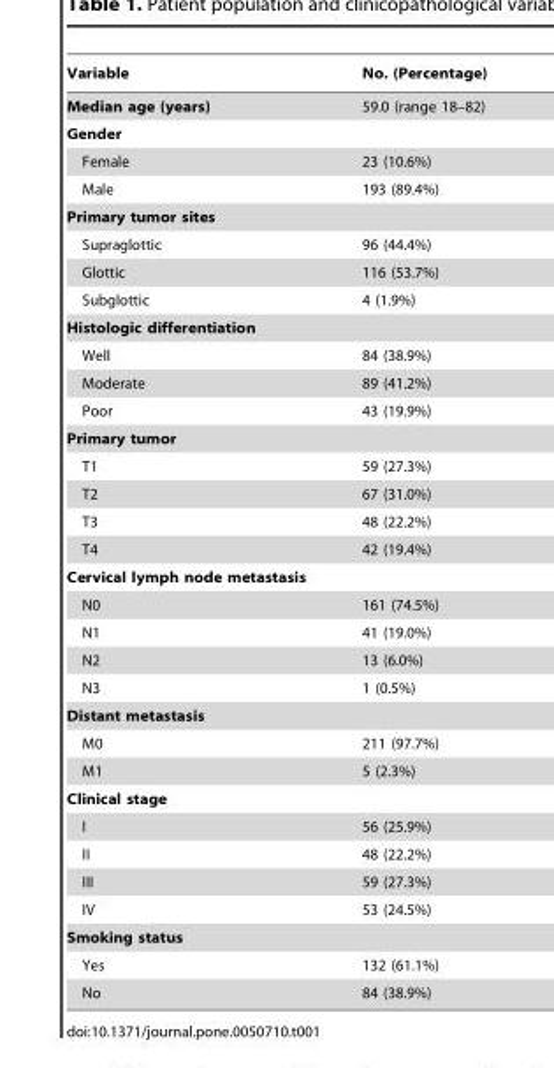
<table><thead><tr><td>Variable</td><td>No. (Percentage)</td></tr></thead><tbody><tr><td>Median age (years)</td><td>59.0 (range 18–82)</td></tr><tr><td colspan="2">Gender</td></tr><tr><td>Female</td><td>23 (10.6%)</td></tr><tr><td>Male</td><td>193 (89.4%)</td></tr><tr><td colspan="2">Primary tumor sites</td></tr><tr><td>Supraglottic</td><td>96 (44.4%)</td></tr><tr><td>Glottic</td><td>116 (53.7%)</td></tr><tr><td>Subglottic</td><td>4 (1.9%)</td></tr><tr><td colspan="2">Histologic differentiation</td></tr><tr><td>Well</td><td>84 (38.9%)</td></tr><tr><td>Moderate</td><td>89 (41.2%)</td></tr><tr><td>Poor</td><td>43 (19.9%)</td></tr><tr><td colspan="2">Primary tumor</td></tr><tr><td>T1</td><td>59 (27.3%)</td></tr><tr><td>T2</td><td>67 (31.0%)</td></tr><tr><td>T3</td><td>48 (22.2%)</td></tr><tr><td>T4</td><td>42 (19.4%)</td></tr><tr><td colspan="2">Cervical lymph node metastasis</td></tr><tr><td>N0</td><td>161 (74.5%)</td></tr><tr><td>N1</td><td>41 (19.0%)</td></tr><tr><td>N2</td><td>13 (6.0%)</td></tr><tr><td>N3</td><td>1 (0.5%)</td></tr><tr><td colspan="2">Distant metastasis</td></tr><tr><td>M0</td><td>211 (97.7%)</td></tr><tr><td>M1</td><td>5 (2.3%)</td></tr><tr><td colspan="2">Clinical stage</td></tr><tr><td>I</td><td>56 (25.9%)</td></tr><tr><td>II</td><td>48 (22.2%)</td></tr><tr><td>III</td><td>59 (27.3%)</td></tr><tr><td>IV</td><td>53 (24.5%)</td></tr><tr><td colspan="2">Smoking status</td></tr><tr><td>Yes</td><td>132 (61.1%)</td></tr><tr><td>No</td><td>84 (38.9%)</td></tr></tbody></table>